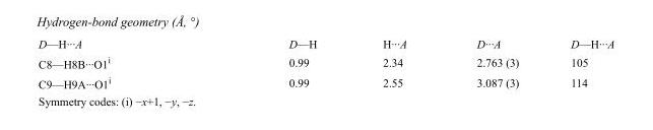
<table><tbody><tr><td>D—H···A</td><td>D—H</td><td>H···A</td><td>D···A</td><td>D—H···A</td></tr><tr><td>C8—H8B···O1<sup>i</sup></td><td>0.99</td><td>2.34</td><td>2.763 (3)</td><td>105</td></tr><tr><td>C9—H9A···O1<sup>i</sup></td><td>0.99</td><td>2.55</td><td>3.087 (3)</td><td>114</td></tr></tbody></table>